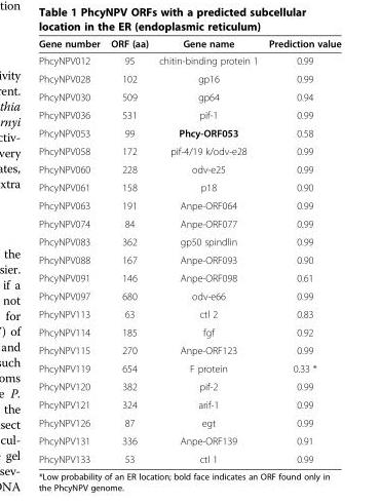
<table><thead><tr><td>Gene number</td><td>ORF (aa)</td><td>Gene name</td><td>Prediction value</td></tr></thead><tbody><tr><td>PhcyNPV012</td><td>95</td><td>chitin-binding protein 1</td><td>0.99</td></tr><tr><td>PhcyNPV028</td><td>102</td><td>gp16</td><td>0.99</td></tr><tr><td>PhcyNPV030</td><td>509</td><td>gp64</td><td>0.94</td></tr><tr><td>PhcyNPV036</td><td>531</td><td>pif-1</td><td>0.99</td></tr><tr><td>PhcyNPV053</td><td>99</td><td>Phcy-ORF053</td><td>0.58</td></tr><tr><td>PhcyNPV058</td><td>172</td><td>pif-4/19 k/odv-e28</td><td>0.99</td></tr><tr><td>PhcyNPV060</td><td>228</td><td>odv-e25</td><td>0.99</td></tr><tr><td>PhcyNPV061</td><td>158</td><td>p18</td><td>0.90</td></tr><tr><td>PhcyNPV063</td><td>191</td><td>Anpe-ORF064</td><td>0.99</td></tr><tr><td>PhcyNPV074</td><td>84</td><td>Anpe-ORF077</td><td>0.99</td></tr><tr><td>PhcyNPV083</td><td>362</td><td>gp50 spindlin</td><td>0.99</td></tr><tr><td>PhcyNPV088</td><td>167</td><td>Anpe-ORF093</td><td>0.90</td></tr><tr><td>PhcyNPV091</td><td>146</td><td>Anpe-ORF098</td><td>0.61</td></tr><tr><td>PhcyNPV097</td><td>680</td><td>odv-e66</td><td>0.99</td></tr><tr><td>PhcyNPV113</td><td>63</td><td>ctl 2</td><td>0.83</td></tr><tr><td>PhcyNPV114</td><td>185</td><td>fgf</td><td>0.92</td></tr><tr><td>PhcyNPV115</td><td>270</td><td>Anpe-ORF123</td><td>0.99</td></tr><tr><td>PhcyNPV119</td><td>654</td><td>F protein</td><td>0.33 *</td></tr><tr><td>PhcyNPV120</td><td>382</td><td>pif-2</td><td>0.99</td></tr><tr><td>PhcyNPV121</td><td>324</td><td>arif-1</td><td>0.99</td></tr><tr><td>PhcyNPV126</td><td>87</td><td>egt</td><td>0.99</td></tr><tr><td>PhcyNPV131</td><td>336</td><td>Anpe-ORF139</td><td>0.91</td></tr><tr><td>PhcyNPV133</td><td>53</td><td>ctl 1</td><td>0.99</td></tr></tbody></table>